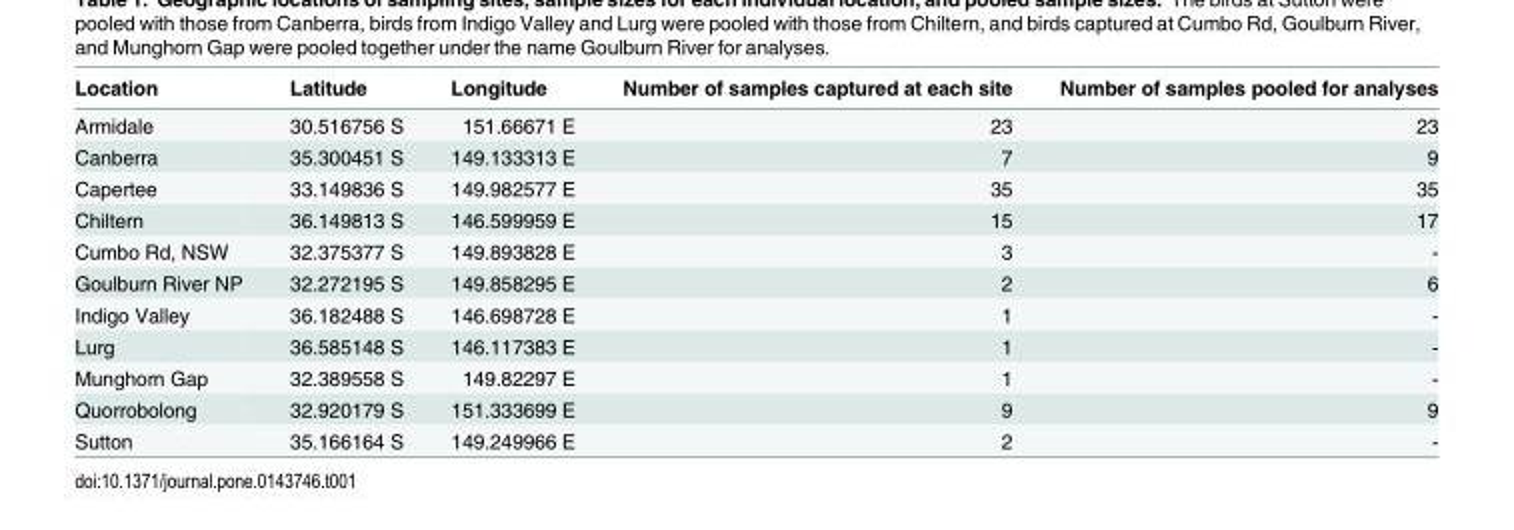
<table><thead><tr><td>Location</td><td>Latitude</td><td>Longitude</td><td>Number of samples captured at each site</td><td>Number of samples pooled for analyses</td></tr></thead><tbody><tr><td>Armidale</td><td>30.516756 S</td><td>151.66671 E</td><td>23</td><td>23</td></tr><tr><td>Canberra</td><td>35.300451 S</td><td>149.133313 E</td><td>7</td><td>9</td></tr><tr><td>Capertee</td><td>33.149836 S</td><td>149.982577 E</td><td>35</td><td>35</td></tr><tr><td>Chiltern</td><td>36.149813 S</td><td>146.599959 E</td><td>15</td><td>17</td></tr><tr><td>Cumbo Rd, NSW</td><td>32.375377 S</td><td>149.893828 E</td><td>3</td><td>-</td></tr><tr><td>Goulburn River NP</td><td>32.272195 S</td><td>149.858295 E</td><td>2</td><td>6</td></tr><tr><td>Indigo Valley</td><td>36.182488 S</td><td>146.698728 E</td><td>1</td><td>-</td></tr><tr><td>Lurg</td><td>36.585148 S</td><td>146.117383 E</td><td>1</td><td>-</td></tr><tr><td>Munghorn Gap</td><td>32.389558 S</td><td>149.82297 E</td><td>1</td><td>-</td></tr><tr><td>Quorrobolong</td><td>32.920179 S</td><td>151.333699 E</td><td>9</td><td>9</td></tr><tr><td>Sutton</td><td>35.166164 S</td><td>149.249966 E</td><td>2</td><td>-</td></tr></tbody></table>